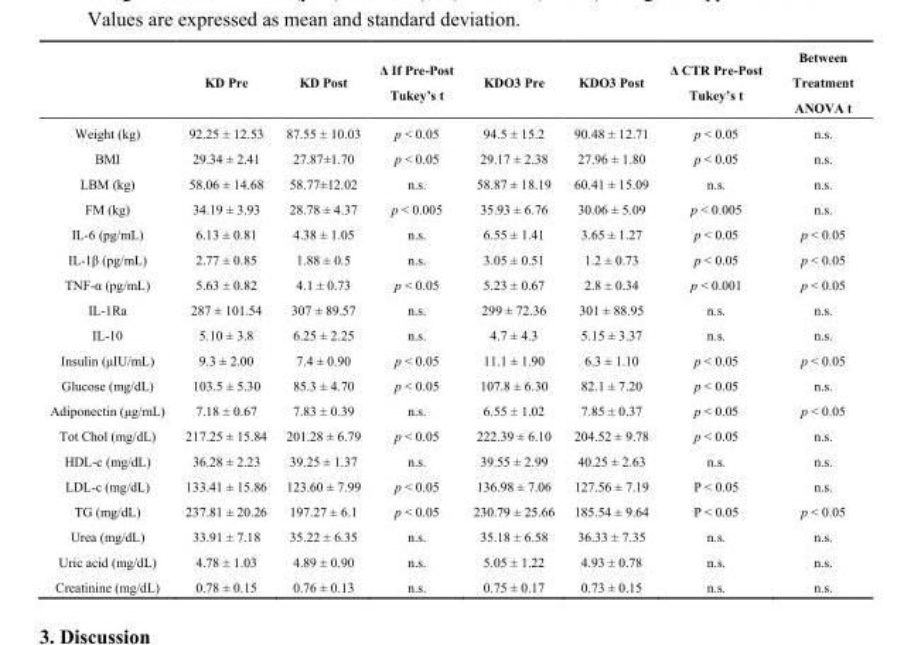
<table><thead><tr><td></td><td>KD Pre</td><td>KD Post</td><td>Δ If Pre-Post Tukey’s t</td><td>KDO3 Pre</td><td>KDO3 Post</td><td>Δ CTR Pre-Post Tukey’s t</td><td>Between Treatment ANOVA t</td></tr></thead><tbody><tr><td>Weight (kg)</td><td>92.25 ± 12.53</td><td>87.55 ± 10.03</td><td>p &lt; 0.05</td><td>94.5 ± 15.2</td><td>90.48 ± 12.71</td><td>p &lt; 0.05</td><td>n.s.</td></tr><tr><td>BMI</td><td>29.34 ± 2.41</td><td>27.87±1.70</td><td>p &lt; 0.05</td><td>29.17 ± 2.38</td><td>27.96 ± 1.80</td><td>p &lt; 0.05</td><td>n.s.</td></tr><tr><td>LBM (kg)</td><td>58.06 ± 14.68</td><td>58.77±12.02</td><td>n.s.</td><td>58.87 ± 18.19</td><td>60.41 ± 15.09</td><td>n.s.</td><td>n.s.</td></tr><tr><td>FM (kg)</td><td>34.19 ± 3.93</td><td>28.78 ± 4.37</td><td>p &lt; 0.005</td><td>35.93 ± 6.76</td><td>30.06 ± 5.09</td><td>p &lt; 0.005</td><td>n.s.</td></tr><tr><td>IL-6 (pg/mL)</td><td>6.13 ± 0.81</td><td>4.38 ± 1.05</td><td>n.s.</td><td>6.55 ± 1.41</td><td>3.65 ± 1.27</td><td>p &lt; 0.05</td><td>p &lt; 0.05</td></tr><tr><td>IL-1β (pg/mL)</td><td>2.77 ± 0.85</td><td>1.88 ± 0.5</td><td>n.s.</td><td>3.05 ± 0.51</td><td>1.2 ± 0.73</td><td>p &lt; 0.05</td><td>p &lt; 0.05</td></tr><tr><td>TNF-α (pg/mL)</td><td>5.63 ± 0.82</td><td>4.1 ± 0.73</td><td>p &lt; 0.05</td><td>5.23 ± 0.67</td><td>2.8 ± 0.34</td><td>p &lt; 0.001</td><td>p &lt; 0.05</td></tr><tr><td>IL-1Ra</td><td>287 ± 101.54</td><td>307 ± 89.57</td><td>n.s.</td><td>299 ± 72.36</td><td>301 ± 88.95</td><td>n.s.</td><td>n.s.</td></tr><tr><td>IL-10</td><td>5.10 ± 3.8</td><td>6.25 ± 2.25</td><td>n.s.</td><td>4.7 ± 4.3</td><td>5.15 ± 3.37</td><td>n.s.</td><td>n.s.</td></tr><tr><td>Insulin (μIU/mL)</td><td>9.3 ± 2.00</td><td>7.4 ± 0.90</td><td>p &lt; 0.05</td><td>11.1 ± 1.90</td><td>6.3 ± 1.10</td><td>p &lt; 0.05</td><td>p &lt; 0.05</td></tr><tr><td>Glucose (mg/dL)</td><td>103.5 ± 5.30</td><td>85.3 ± 4.70</td><td>p &lt; 0.05</td><td>107.8 ± 6.30</td><td>82.1 ± 7.20</td><td>p &lt; 0.05</td><td>n.s.</td></tr><tr><td>Adiponectin (μg/mL)</td><td>7.18 ± 0.67</td><td>7.83 ± 0.39</td><td>n.s.</td><td>6.55 ± 1.02</td><td>7.85 ± 0.37</td><td>p &lt; 0.05</td><td>p &lt; 0.05</td></tr><tr><td>Tot Chol (mg/dL)</td><td>217.25 ± 15.84</td><td>201.28 ± 6.79</td><td>p &lt; 0.05</td><td>222.39 ± 6.10</td><td>204.52 ± 9.78</td><td>p &lt; 0.05</td><td>n.s.</td></tr><tr><td>HDL-c (mg/dL)</td><td>36.28 ± 2.23</td><td>39.25 ± 1.37</td><td>n.s.</td><td>39.55 ± 2.99</td><td>40.25 ± 2.63</td><td>n.s.</td><td>n.s.</td></tr><tr><td>LDL-c (mg/dL)</td><td>133.41 ± 15.86</td><td>123.60 ± 7.99</td><td>p &lt; 0.05</td><td>136.98 ± 7.06</td><td>127.56 ± 7.19</td><td>P &lt; 0.05</td><td>n.s.</td></tr><tr><td>TG (mg/dL)</td><td>237.81 ± 20.26</td><td>197.27 ± 6.1</td><td>p &lt; 0.05</td><td>230.79 ± 25.66</td><td>185.54 ± 9.64</td><td>P &lt; 0.05</td><td>p &lt; 0.05</td></tr><tr><td>Urea (mg/dL)</td><td>33.91 ± 7.18</td><td>35.22 ± 6.35</td><td>n.s.</td><td>35.18 ± 6.58</td><td>36.33 ± 7.35</td><td>n.s.</td><td>n.s.</td></tr><tr><td>Uric acid (mg/dL)</td><td>4.78 ± 1.03</td><td>4.89 ± 0.90</td><td>n.s.</td><td>5.05 ± 1.22</td><td>4.93 ± 0.78</td><td>n.s.</td><td>n.s.</td></tr><tr><td>Creatinine (mg/dL)</td><td>0.78 ± 0.15</td><td>0.76 ± 0.13</td><td>n.s.</td><td>0.75 ± 0.17</td><td>0.73 ± 0.15</td><td>n.s.</td><td>n.s.</td></tr></tbody></table>